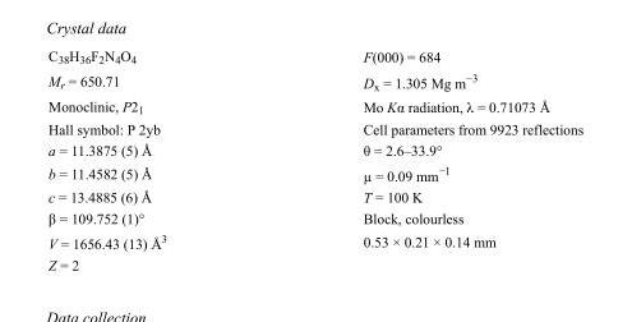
<table><tbody><tr><td>C<sub>38</sub>H<sub>36</sub>F<sub>2</sub>N<sub>4</sub>O<sub>4</sub></td><td>F(000) = 684</td></tr><tr><td>M<sub>r</sub> = 650.71</td><td>D<sub>x</sub> = 1.305 Mg m<sup>−3</sup></td></tr><tr><td>Monoclinic, P2<sub>1</sub></td><td>Mo Kα radiation, λ = 0.71073 Å</td></tr><tr><td>Hall symbol: P 2yb</td><td>Cell parameters from 9923 reflections</td></tr><tr><td>a = 11.3875 (5) Å</td><td>θ = 2.6–33.9°</td></tr><tr><td>b = 11.4582 (5) Å</td><td>µ = 0.09 mm<sup>−1</sup></td></tr><tr><td>c = 13.4885 (6) Å</td><td>T = 100 K</td></tr><tr><td>β = 109.752 (1)°</td><td>Block, colourless</td></tr><tr><td>V = 1656.43 (13) Å<sup>3</sup></td><td>0.53 × 0.21 × 0.14 mm</td></tr><tr><td>Z = 2</td><td></td></tr></tbody></table>